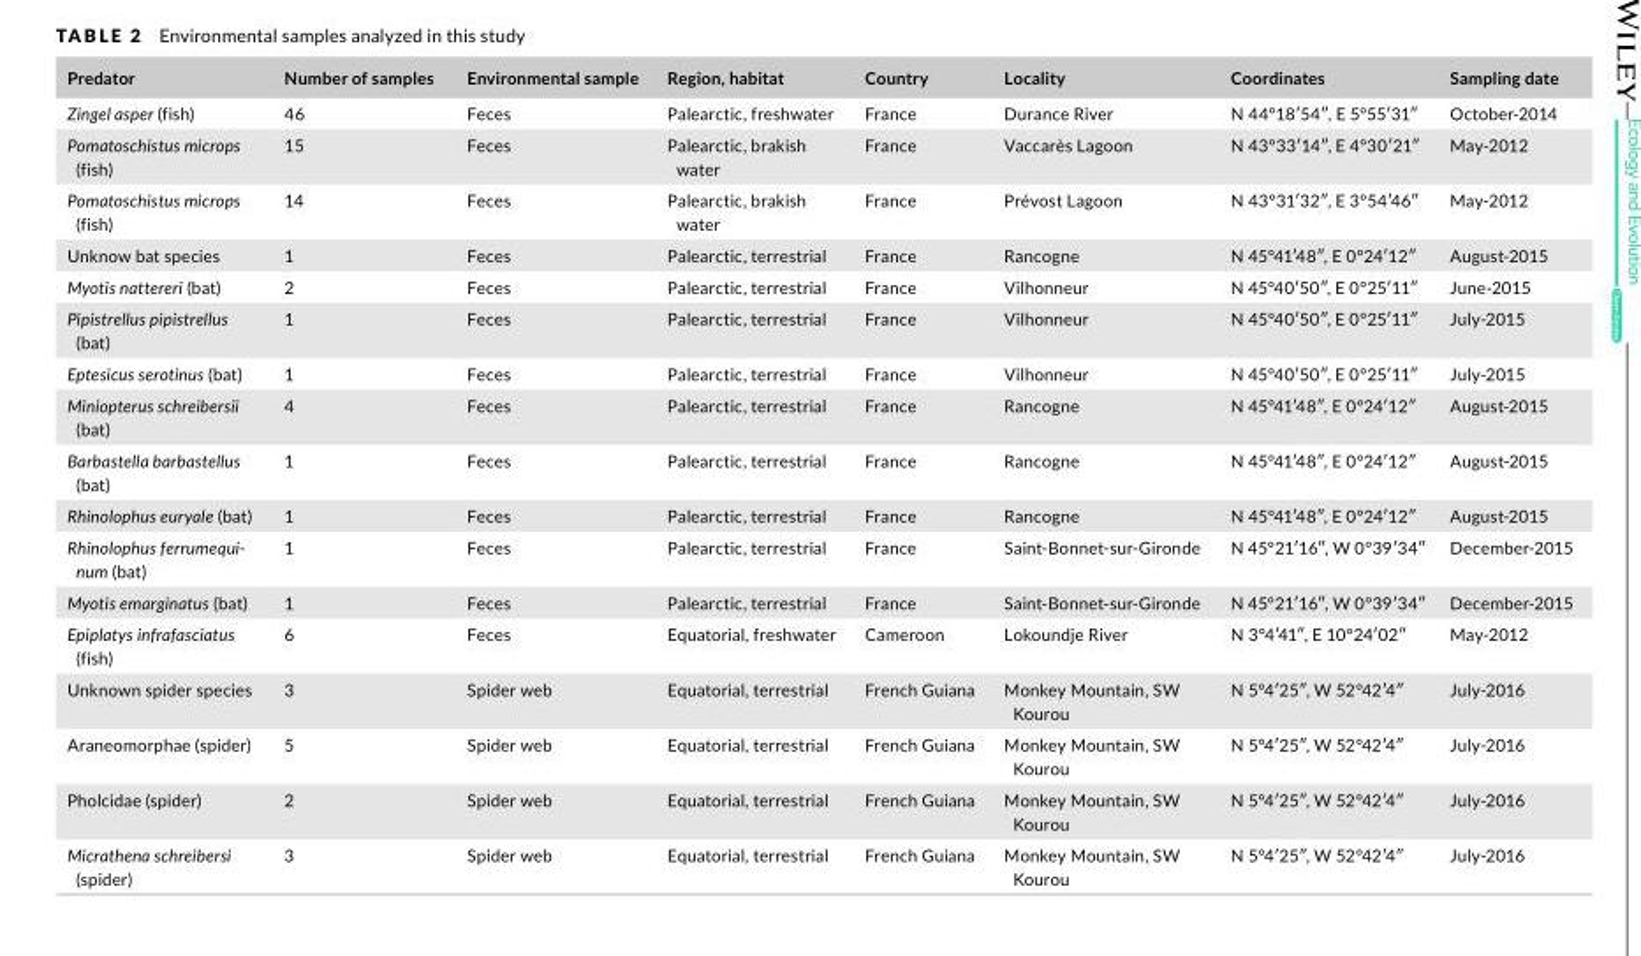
<table><thead><tr><td>Predator</td><td>Number of samples</td><td>Environmental sample</td><td>Region, habitat</td><td>Country</td><td>Locality</td><td>Coordinates</td><td>Sampling date</td></tr></thead><tbody><tr><td>Zingel asper (fish)</td><td>46</td><td>Feces</td><td>Palearctic, freshwater</td><td>France</td><td>Durance River</td><td>N 44°18′54″, E 5°55′31″</td><td>October‐2014</td></tr><tr><td>Pomatoschistus microps (fish)</td><td>15</td><td>Feces</td><td>Palearctic, brakish water</td><td>France</td><td>Vaccarès Lagoon</td><td>N 43°33′14″, E 4°30′21″</td><td>May‐2012</td></tr><tr><td>Pomatoschistus microps (fish)</td><td>14</td><td>Feces</td><td>Palearctic, brakish water</td><td>France</td><td>Prévost Lagoon</td><td>N 43°31′32″, E 3°54′46″</td><td>May‐2012</td></tr><tr><td>Unknow bat species</td><td>1</td><td>Feces</td><td>Palearctic, terrestrial</td><td>France</td><td>Rancogne</td><td>N 45°41′48″, E 0°24′12″</td><td>August‐2015</td></tr><tr><td>Myotis nattereri (bat)</td><td>2</td><td>Feces</td><td>Palearctic, terrestrial</td><td>France</td><td>Vilhonneur</td><td>N 45°40′50″, E 0°25′11″</td><td>June‐2015</td></tr><tr><td>Pipistrellus pipistrellus (bat)</td><td>1</td><td>Feces</td><td>Palearctic, terrestrial</td><td>France</td><td>Vilhonneur</td><td>N 45°40′50″, E 0°25′11″</td><td>July‐2015</td></tr><tr><td>Eptesicus serotinus (bat)</td><td>1</td><td>Feces</td><td>Palearctic, terrestrial</td><td>France</td><td>Vilhonneur</td><td>N 45°40′50″, E 0°25′11″</td><td>July‐2015</td></tr><tr><td>Miniopterus schreibersii (bat)</td><td>4</td><td>Feces</td><td>Palearctic, terrestrial</td><td>France</td><td>Rancogne</td><td>N 45°41′48″, E 0°24′12″</td><td>August‐2015</td></tr><tr><td>Barbastella barbastellus (bat)</td><td>1</td><td>Feces</td><td>Palearctic, terrestrial</td><td>France</td><td>Rancogne</td><td>N 45°41′48″, E 0°24′12″</td><td>August‐2015</td></tr><tr><td>Rhinolophus euryale (bat)</td><td>1</td><td>Feces</td><td>Palearctic, terrestrial</td><td>France</td><td>Rancogne</td><td>N 45°41′48″, E 0°24′12″</td><td>August‐2015</td></tr><tr><td>Rhinolophus ferrumequi‐ num (bat)</td><td>1</td><td>Feces</td><td>Palearctic, terrestrial</td><td>France</td><td>Saint‐Bonnet‐sur‐Gironde</td><td>N 45°21′16″, W 0°39′34″</td><td>December‐2015</td></tr><tr><td>Myotis emarginatus (bat)</td><td>1</td><td>Feces</td><td>Palearctic, terrestrial</td><td>France</td><td>Saint‐Bonnet‐sur‐Gironde</td><td>N 45°21′16″, W 0°39′34″</td><td>December‐2015</td></tr><tr><td>Epiplatys infrafasciatus (fish)</td><td>6</td><td>Feces</td><td>Equatorial, freshwater</td><td>Cameroon</td><td>Lokoundje River</td><td>N 3°4′41″, E 10°24′02″</td><td>May‐2012</td></tr><tr><td>Unknown spider species</td><td>3</td><td>Spider web</td><td>Equatorial, terrestrial</td><td>French Guiana</td><td>Monkey Mountain, SW Kourou</td><td>N 5°4′25″, W 52°42′4″</td><td>July‐2016</td></tr><tr><td>Araneomorphae (spider)</td><td>5</td><td>Spider web</td><td>Equatorial, terrestrial</td><td>French Guiana</td><td>Monkey Mountain, SW Kourou</td><td>N 5°4′25″, W 52°42′4″</td><td>July‐2016</td></tr><tr><td>Pholcidae (spider)</td><td>2</td><td>Spider web</td><td>Equatorial, terrestrial</td><td>French Guiana</td><td>Monkey Mountain, SW Kourou</td><td>N 5°4′25″, W 52°42′4″</td><td>July‐2016</td></tr><tr><td>Micrathena schreibersi (spider)</td><td>3</td><td>Spider web</td><td>Equatorial, terrestrial</td><td>French Guiana</td><td>Monkey Mountain, SW Kourou</td><td>N 5°4′25″, W 52°42′4″</td><td>July‐2016</td></tr></tbody></table>